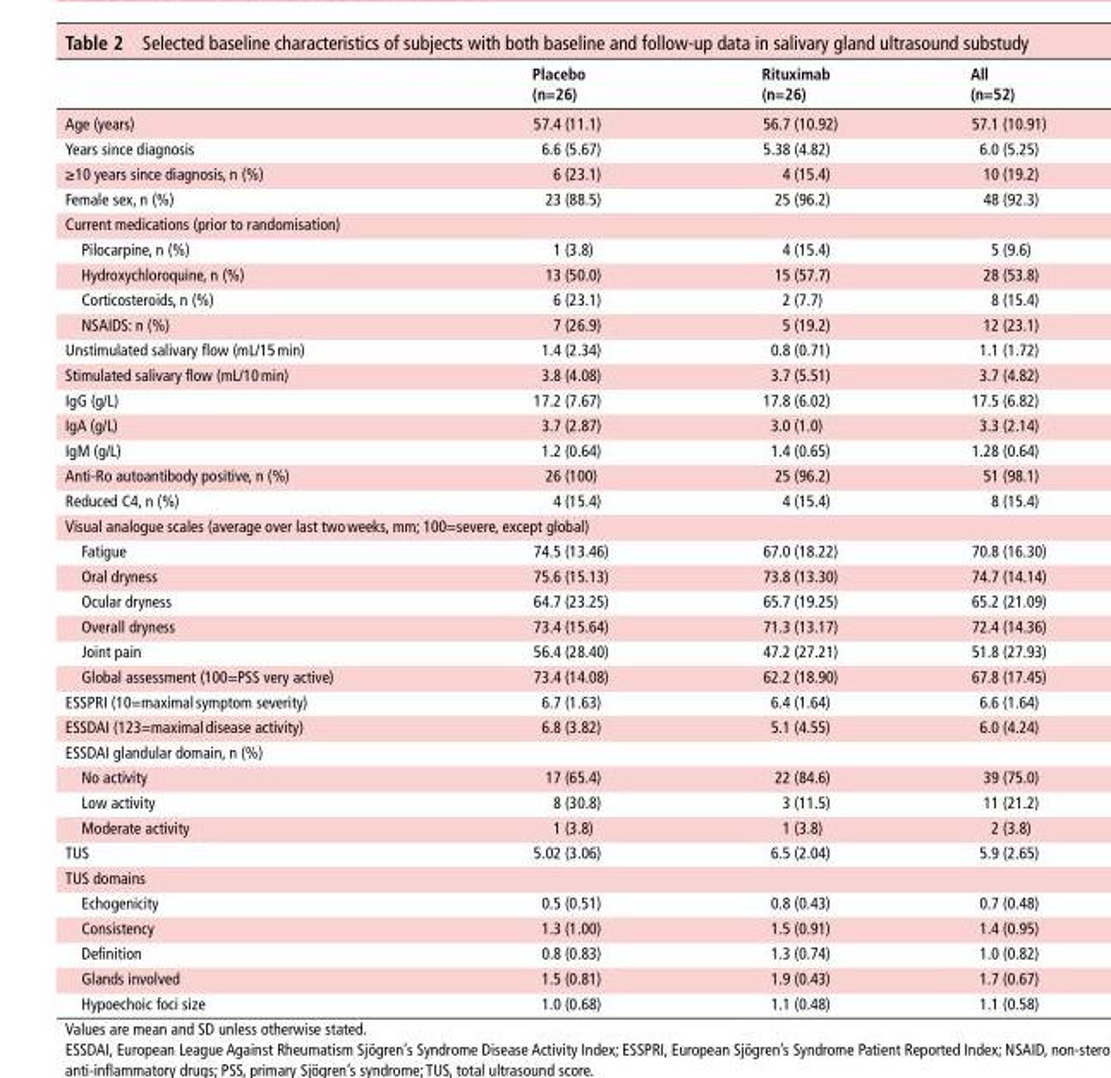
<table><thead><tr><td></td><td>Placebo (n=26)</td><td>rituximab (n=26)</td><td>All (n=52)</td></tr></thead><tbody><tr><td>Age (years)</td><td>57.4 (11.1)</td><td>56.7 (10.92)</td><td>57.1 (10.91)</td></tr><tr><td>Years since diagnosis</td><td>6.6 (5.67)</td><td>5.38 (4.82)</td><td>6.0 (5.25)</td></tr><tr><td>≥10 years since diagnosis, n (%)</td><td>6 (23.1)</td><td>4 (15.4)</td><td>10 (19.2)</td></tr><tr><td>Female sex, n (%)</td><td>23 (88.5)</td><td>25 (96.2)</td><td>48 (92.3)</td></tr><tr><td colspan="4">Current medications (prior to randomisation)</td></tr><tr><td>Pilocarpine, n (%)</td><td>1 (3.8)</td><td>4 (15.4)</td><td>5 (9.6)</td></tr><tr><td>Hydroxychloroquine, n (%)</td><td>13 (50.0)</td><td>15 (57.7)</td><td>28 (53.8)</td></tr><tr><td>Corticosteroids, n (%)</td><td>6 (23.1)</td><td>2 (7.7)</td><td>8 (15.4)</td></tr><tr><td>NSAIDS: n (%)</td><td>7 (26.9)</td><td>5 (19.2)</td><td>12 (23.1)</td></tr><tr><td>Unstimulated salivary flow (mL/15 min)</td><td>1.4 (2.34)</td><td>0.8 (0.71)</td><td>1.1 (1.72)</td></tr><tr><td>Stimulated salivary flow (mL/10 min)</td><td>3.8 (4.08)</td><td>3.7 (5.51)</td><td>3.7 (4.82)</td></tr><tr><td>IgG (g/L)</td><td>17.2 (7.67)</td><td>17.8 (6.02)</td><td>17.5 (6.82)</td></tr><tr><td>IgA (g/L)</td><td>3.7 (2.87)</td><td>3.0 (1.0)</td><td>3.3 (2.14)</td></tr><tr><td>IgM (g/L)</td><td>1.2 (0.64)</td><td>1.4 (0.65)</td><td>1.28 (0.64)</td></tr><tr><td>Anti-Ro autoantibody positive, n (%)</td><td>26 (100)</td><td>25 (96.2)</td><td>51 (98.1)</td></tr><tr><td>Reduced C4, n (%)</td><td>4 (15.4)</td><td>4 (15.4)</td><td>8 (15.4)</td></tr><tr><td colspan="4">Visual analogue scales (average over last two weeks, mm; 100=severe, except global)</td></tr><tr><td>Fatigue</td><td>74.5 (13.46)</td><td>67.0 (18.22)</td><td>70.8 (16.30)</td></tr><tr><td>Oral dryness</td><td>75.6 (15.13)</td><td>73.8 (13.30)</td><td>74.7 (14.14)</td></tr><tr><td>Ocular dryness</td><td>64.7 (23.25)</td><td>65.7 (19.25)</td><td>65.2 (21.09)</td></tr><tr><td>Overall dryness</td><td>73.4 (15.64)</td><td>71.3 (13.17)</td><td>72.4 (14.36)</td></tr><tr><td>Joint pain</td><td>56.4 (28.40)</td><td>47.2 (27.21)</td><td>51.8 (27.93)</td></tr><tr><td>Global assessment (100=PSS very active)</td><td>73.4 (14.08)</td><td>62.2 (18.90)</td><td>67.8 (17.45)</td></tr><tr><td>ESSPRI (10=maximal symptom severity)</td><td>6.7 (1.63)</td><td>6.4 (1.64)</td><td>6.6 (1.64)</td></tr><tr><td>ESSDAI (123=maximal disease activity)</td><td>6.8 (3.82)</td><td>5.1 (4.55)</td><td>6.0 (4.24)</td></tr><tr><td colspan="4">ESSDAI glandular domain, n (%)</td></tr><tr><td>No activity</td><td>17 (65.4)</td><td>22 (84.6)</td><td>39 (75.0)</td></tr><tr><td>Low activity</td><td>8 (30.8)</td><td>3 (11.5)</td><td>11 (21.2)</td></tr><tr><td>Moderate activity</td><td>1 (3.8)</td><td>1 (3.8)</td><td>2 (3.8)</td></tr><tr><td>TUS</td><td>5.02 (3.06)</td><td>6.5 (2.04)</td><td>5.9 (2.65)</td></tr><tr><td colspan="4">TUS domains</td></tr><tr><td>Echogenicity</td><td>0.5 (0.51)</td><td>0.8 (0.43)</td><td>0.7 (0.48)</td></tr><tr><td>Consistency</td><td>1.3 (1.00)</td><td>1.5 (0.91)</td><td>1.4 (0.95)</td></tr><tr><td>Definition</td><td>0.8 (0.83)</td><td>1.3 (0.74)</td><td>1.0 (0.82)</td></tr><tr><td>Glands involved</td><td>1.5 (0.81)</td><td>1.9 (0.43)</td><td>1.7 (0.67)</td></tr><tr><td>Hypoechoic foci size</td><td>1.0 (0.68)</td><td>1.1 (0.48)</td><td>1.1 (0.58)</td></tr></tbody></table>